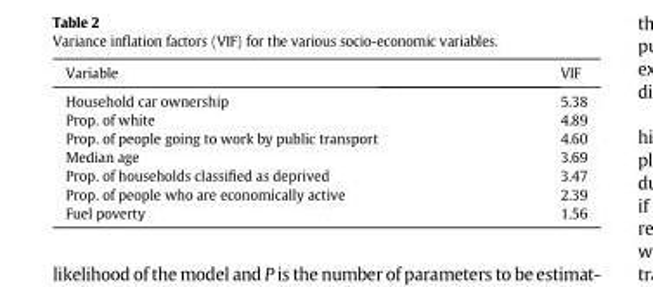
<table><thead><tr><td>Variable</td><td>VIF</td></tr></thead><tbody><tr><td>Household car ownership</td><td>5.38</td></tr><tr><td>Prop. of white</td><td>4.89</td></tr><tr><td>Prop. of people going to work by public transport</td><td>4.60</td></tr><tr><td>Median age</td><td>3.69</td></tr><tr><td>Prop. of households classified as deprived</td><td>3.47</td></tr><tr><td>Prop. of people who are economically active</td><td>2.39</td></tr><tr><td>Fuel poverty</td><td>1.56</td></tr></tbody></table>